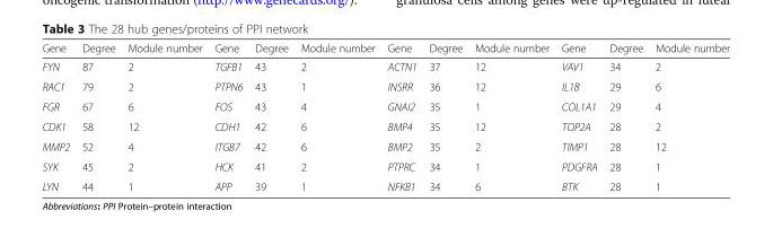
<table><thead><tr><td>Gene</td><td>Degree</td><td>Module number</td><td>Gene</td><td>Degree</td><td>Module number</td><td>Gene</td><td>Degree</td><td>Module number</td><td>Gene</td><td>Degree</td><td>Module number</td></tr></thead><tbody><tr><td>FYN</td><td>87</td><td>2</td><td>TGFB1</td><td>43</td><td>2</td><td>ACTN1</td><td>37</td><td>12</td><td>VAV1</td><td>34</td><td>2</td></tr><tr><td>RAC1</td><td>79</td><td>2</td><td>PTPN6</td><td>43</td><td>1</td><td>INSRR</td><td>36</td><td>12</td><td>IL1B</td><td>29</td><td>6</td></tr><tr><td>FGR</td><td>67</td><td>6</td><td>FOS</td><td>43</td><td>4</td><td>GNAI2</td><td>35</td><td>1</td><td>COL1A1</td><td>29</td><td>4</td></tr><tr><td>CDK1</td><td>58</td><td>12</td><td>CDH1</td><td>42</td><td>6</td><td>BMP4</td><td>35</td><td>12</td><td>TOP2A</td><td>28</td><td>2</td></tr><tr><td>MMP2</td><td>52</td><td>4</td><td>ITGB7</td><td>42</td><td>6</td><td>BMP2</td><td>35</td><td>2</td><td>TIMP1</td><td>28</td><td>12</td></tr><tr><td>SYK</td><td>45</td><td>2</td><td>HCK</td><td>41</td><td>2</td><td>PTPRC</td><td>34</td><td>1</td><td>PDGFRA</td><td>28</td><td>1</td></tr><tr><td>LYN</td><td>44</td><td>1</td><td>APP</td><td>39</td><td>1</td><td>NFKB1</td><td>34</td><td>6</td><td>BTK</td><td>28</td><td>1</td></tr></tbody></table>